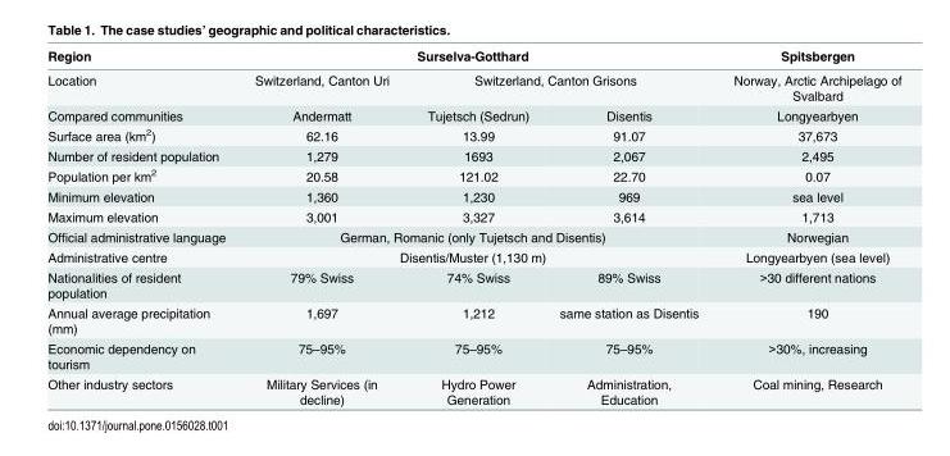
<table><thead><tr><td rowspan="3">Region Location Compared communities</td><td colspan="3">Surselva-Gotthard</td><td rowspan="3">Spitsbergen Norway, Arctic Archipelago of Svalbard Longyearbyen</td></tr><tr><td rowspan="2">Switzerland, Canton Uri Andermatt</td><td colspan="2">Switzerland, Canton Grisons</td></tr><tr><td>Tujetsch (Sedrun)</td><td>Disentis</td></tr></thead><tbody><tr><td>Surface area (km<sup>2</sup>)</td><td>62.16</td><td>13.99</td><td>91.07</td><td>37,673</td></tr><tr><td>Number of resident population</td><td>1,279</td><td>1693</td><td>2,067</td><td>2,495</td></tr><tr><td>Population per km<sup>2</sup></td><td>20.58</td><td>121.02</td><td>22.70</td><td>0.07</td></tr><tr><td>Minimum elevation</td><td>1,360</td><td>1,230</td><td>969</td><td>sea level</td></tr><tr><td>Maximum elevation</td><td>3,001</td><td>3,327</td><td>3,614</td><td>1,713</td></tr><tr><td>Official administrative language</td><td colspan="3">German, Romanic (only Tujetsch and Disentis)</td><td>Norwegian</td></tr><tr><td>Administrative centre</td><td colspan="3">Disentis/Muster (1,130 m)</td><td>Longyearbyen (sea level)</td></tr><tr><td>Nationalities of resident population</td><td>79% Swiss</td><td>74% Swiss</td><td>89% Swiss</td><td>&gt;30 different nations</td></tr><tr><td>Annual average precipitation (mm)</td><td>1,697</td><td>1,212</td><td>same station as Disentis</td><td>190</td></tr><tr><td>Economic dependency on tourism</td><td>75–95%</td><td>75–95%</td><td>75–95%</td><td>&gt;30%, increasing</td></tr><tr><td>Other industry sectors</td><td>Military Services (in decline)</td><td>Hydro Power Generation</td><td>Administration, Education</td><td>Coal mining, Research</td></tr></tbody></table>